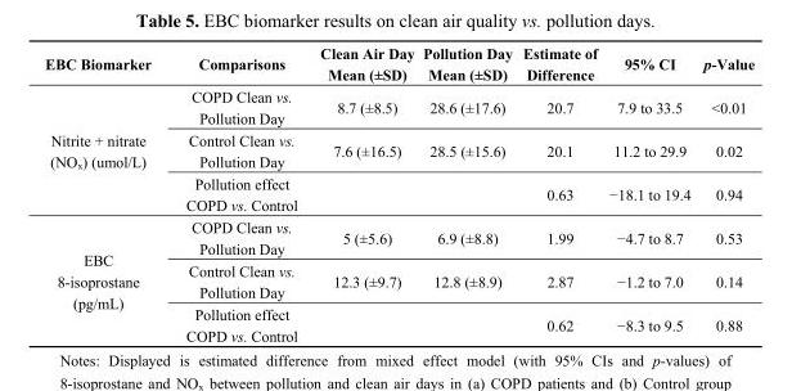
<table><thead><tr><td>EBC Biomarker</td><td>Comparisons</td><td>Clean Air Day Mean (±SD)</td><td>Pollution Day Mean (±SD)</td><td>Estimate of Difference</td><td>95% CI</td><td>p-Value</td></tr></thead><tbody><tr><td rowspan="3">Nitrite + nitrate (NO<sub>x</sub>) (umol/L)</td><td>COPD Clean vs. Pollution Day</td><td>8.7 (±8.5)</td><td>28.6 (±17.6)</td><td>20.7</td><td>7.9 to 33.5</td><td>&lt;0.01</td></tr><tr><td>Control Clean vs. Pollution Day</td><td>7.6 (±16.5)</td><td>28.5 (±15.6)</td><td>20.1</td><td>11.2 to 29.9</td><td>0.02</td></tr><tr><td>Pollution effect COPD vs. Control</td><td></td><td></td><td>0.63</td><td>−18.1 to 19.4</td><td>0.94</td></tr><tr><td rowspan="3">EBC 8-isoprostane (pg/mL)</td><td>COPD Clean vs. Pollution Day</td><td>5 (±5.6)</td><td>6.9 (±8.8)</td><td>1.99</td><td>−4.7 to 8.7</td><td>0.53</td></tr><tr><td>Control Clean vs. Pollution Day</td><td>12.3 (±9.7)</td><td>12.8 (±8.9)</td><td>2.87</td><td>−1.2 to 7.0</td><td>0.14</td></tr><tr><td>Pollution effect COPD vs. Control</td><td></td><td></td><td>0.62</td><td>−8.3 to 9.5</td><td>0.88</td></tr></tbody></table>